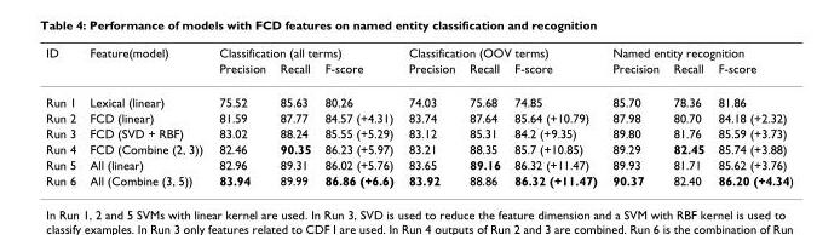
<table><thead><tr><td rowspan="2">ID</td><td rowspan="2">Feature(model)</td><td colspan="3">Classification (all terms)</td><td colspan="3">Classification (OOV terms)</td><td colspan="3">Named entity recognition</td></tr><tr><td>Precision</td><td>Recall</td><td>F-score</td><td>Precision</td><td>Recall</td><td>F-score</td><td>Precision</td><td>Recall</td><td>F-score</td></tr></thead><tbody><tr><td>Run 1</td><td>Lexical (linear)</td><td>75.52</td><td>85.63</td><td>80.26</td><td>74.03</td><td>75.68</td><td>74.85</td><td>85.70</td><td>78.36</td><td>81.86</td></tr><tr><td>Run 2</td><td>FCD (linear)</td><td>81.59</td><td>87.77</td><td>84.57 (+4.31)</td><td>83.74</td><td>87.64</td><td>85.64 (+10.79)</td><td>87.98</td><td>80.70</td><td>84.18 (+2.32)</td></tr><tr><td>Run 3</td><td>FCD (SVD + RBF)</td><td>83.02</td><td>88.24</td><td>85.55 (+5.29)</td><td>83.12</td><td>85.31</td><td>84.2 (+9.35)</td><td>89.80</td><td>81.76</td><td>85.59 (+3.73)</td></tr><tr><td>Run 4</td><td>FCD (Combine (2, 3))</td><td>82.46</td><td>90.35</td><td>86.23 (+5.97)</td><td>83.21</td><td>88.35</td><td>85.7 (+10.85)</td><td>89.29</td><td>82.45</td><td>85.74 (+3.88)</td></tr><tr><td>Run 5</td><td>All (linear)</td><td>82.96</td><td>89.31</td><td>86.02 (+5.76)</td><td>83.65</td><td>89.16</td><td>86.32 (+11.47)</td><td>89.93</td><td>81.71</td><td>85.62 (+3.76)</td></tr><tr><td>Run 6</td><td>All (Combine (3, 5))</td><td>83.94</td><td>89.99</td><td>86.86 (+6.6)</td><td>83.92</td><td>88.86</td><td>86.32 (+11.47)</td><td>90.37</td><td>82.40</td><td>86.20 (+4.34)</td></tr></tbody></table>